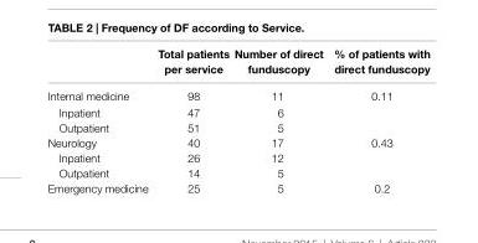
<table><thead><tr><td></td><td>Total patients per service</td><td>number of direct funduscopy</td><td>% of patients with direct funduscopy</td></tr></thead><tbody><tr><td>Internal medicine</td><td>98</td><td>11</td><td>0.11</td></tr><tr><td>Inpatient</td><td>47</td><td>6</td><td></td></tr><tr><td>Outpatient</td><td>51</td><td>5</td><td></td></tr><tr><td>Neurology</td><td>40</td><td>17</td><td>0.43</td></tr><tr><td>Inpatient</td><td>26</td><td>12</td><td></td></tr><tr><td>Outpatient</td><td>14</td><td>5</td><td></td></tr><tr><td>Emergency medicine</td><td>25</td><td>5</td><td>0.2</td></tr></tbody></table>